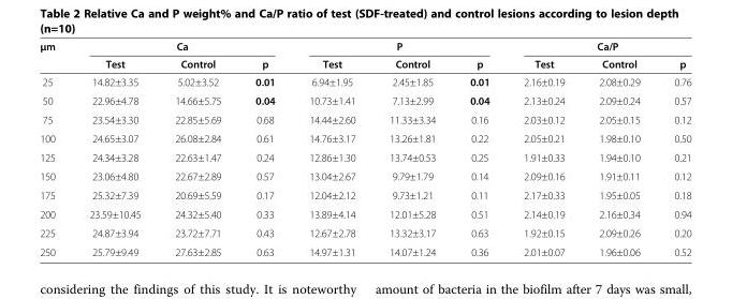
<table><thead><tr><td rowspan="2">μm</td><td colspan="3">Ca</td><td colspan="3">P</td><td colspan="3">Ca/P</td></tr><tr><td>Test</td><td>Control</td><td>p</td><td>Test</td><td>Control</td><td>p</td><td>Test</td><td>Control</td><td>p</td></tr></thead><tbody><tr><td>25</td><td>14.82±3.35</td><td>5.02±3.52</td><td>0.01</td><td>6.94±1.95</td><td>2.45±1.85</td><td>0.01</td><td>2.16±0.19</td><td>2.08±0.29</td><td>0.76</td></tr><tr><td>50</td><td>22.96±4.78</td><td>14.66±5.75</td><td>0.04</td><td>10.73±1.41</td><td>7.13±2.99</td><td>0.04</td><td>2.13±0.24</td><td>2.09±0.24</td><td>0.57</td></tr><tr><td>75</td><td>23.54±3.30</td><td>22.85±5.69</td><td>0.68</td><td>14.44±2.60</td><td>11.33±3.34</td><td>0.16</td><td>2.03±0.12</td><td>2.05±0.15</td><td>0.12</td></tr><tr><td>100</td><td>24.65±3.07</td><td>26.08±2.84</td><td>0.61</td><td>14.76±3.17</td><td>13.26±1.81</td><td>0.22</td><td>2.05±0.21</td><td>1.98±0.10</td><td>0.50</td></tr><tr><td>125</td><td>24.34±3.28</td><td>22.63±1.47</td><td>0.24</td><td>12.86±1.30</td><td>13.74±0.53</td><td>0.25</td><td>1.91±0.33</td><td>1.94±0.10</td><td>0.21</td></tr><tr><td>150</td><td>23.06±4.80</td><td>22.67±2.89</td><td>0.57</td><td>13.04±2.67</td><td>9.79±1.79</td><td>0.14</td><td>2.09±0.16</td><td>1.91±0.11</td><td>0.12</td></tr><tr><td>175</td><td>25.32±7.39</td><td>20.69±5.59</td><td>0.17</td><td>12.04±2.12</td><td>9.73±1.21</td><td>0.11</td><td>2.17±0.33</td><td>1.95±0.05</td><td>0.18</td></tr><tr><td>200</td><td>23.59±10.45</td><td>24.32±5.40</td><td>0.33</td><td>13.89±4.14</td><td>12.01±5.28</td><td>0.51</td><td>2.14±0.19</td><td>2.16±0.34</td><td>0.94</td></tr><tr><td>225</td><td>24.87±3.94</td><td>23.72±7.71</td><td>0.43</td><td>12.67±2.78</td><td>13.32±3.17</td><td>0.63</td><td>1.92±0.15</td><td>2.09±0.26</td><td>0.20</td></tr><tr><td>250</td><td>25.79±9.49</td><td>27.63±2.85</td><td>0.63</td><td>14.97±1.31</td><td>14.07±1.24</td><td>0.36</td><td>2.01±0.07</td><td>1.96±0.06</td><td>0.52</td></tr></tbody></table>